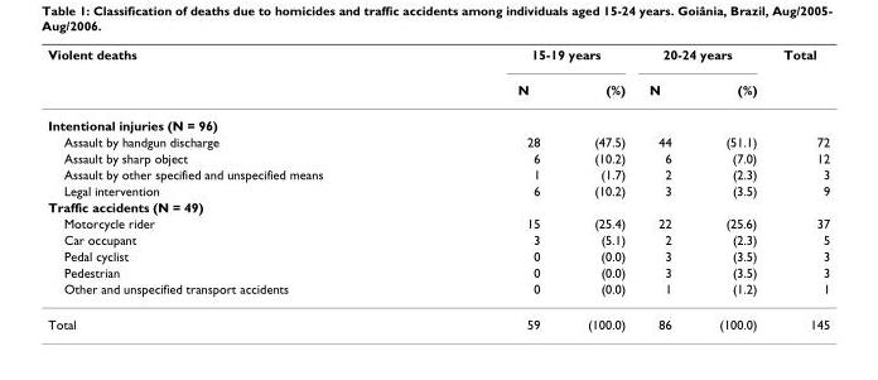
<table><thead><tr><td rowspan="2">Violent deaths</td><td colspan="2">15-19 years</td><td colspan="2">20-24 years</td><td rowspan="2">Total</td></tr><tr><td>N</td><td>(%)</td><td>N</td><td>(%)</td></tr></thead><tbody><tr><td colspan="6">Intentional injuries (N = 96)</td></tr><tr><td>Assault by handgun discharge</td><td>28</td><td>(47.5)</td><td>44</td><td>(51.1)</td><td>72</td></tr><tr><td>Assault by sharp object</td><td>6</td><td>(10.2)</td><td>6</td><td>(7.0)</td><td>12</td></tr><tr><td>Assault by other specified and unspecified means</td><td>1</td><td>(1.7)</td><td>2</td><td>(2.3)</td><td>3</td></tr><tr><td>Legal intervention</td><td>6</td><td>(10.2)</td><td>3</td><td>(3.5)</td><td>9</td></tr><tr><td colspan="6">Traffic accidents (N = 49)</td></tr><tr><td>Motorcycle rider</td><td>15</td><td>(25.4)</td><td>22</td><td>(25.6)</td><td>37</td></tr><tr><td>Car occupant</td><td>3</td><td>(5.1)</td><td>2</td><td>(2.3)</td><td>5</td></tr><tr><td>Pedal cyclist</td><td>0</td><td>(0.0)</td><td>3</td><td>(3.5)</td><td>3</td></tr><tr><td>Pedestrian</td><td>0</td><td>(0.0)</td><td>3</td><td>(3.5)</td><td>3</td></tr><tr><td>Other and unspecified transport accidents</td><td>0</td><td>(0.0)</td><td>1</td><td>(1.2)</td><td>1</td></tr><tr><td>Total</td><td>59</td><td>(100.0)</td><td>86</td><td>(100.0)</td><td>145</td></tr></tbody></table>